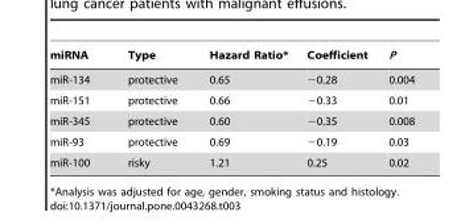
<table><thead><tr><td>miRNA</td><td>Type</td><td>Hazard Ratio*</td><td>Coefficient</td><td>P</td></tr></thead><tbody><tr><td>miR-134</td><td>protective</td><td>0.65</td><td>−0.28</td><td>0.004</td></tr><tr><td>miR-151</td><td>protective</td><td>0.66</td><td>−0.33</td><td>0.01</td></tr><tr><td>miR-345</td><td>protective</td><td>0.60</td><td>−0.35</td><td>0.008</td></tr><tr><td>miR-93</td><td>protective</td><td>0.69</td><td>−0.19</td><td>0.03</td></tr><tr><td>miR-100</td><td>risky</td><td>1.21</td><td>0.25</td><td>0.02</td></tr></tbody></table>